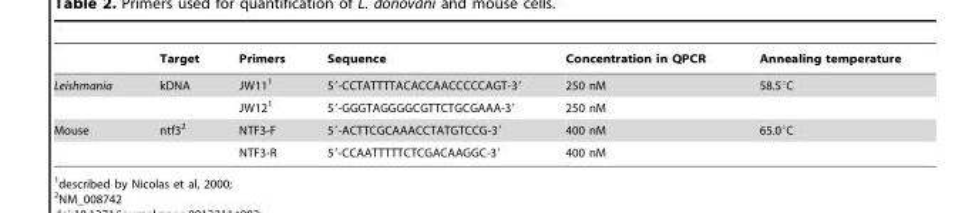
<table><thead><tr><td></td><td>Target</td><td>Primers</td><td>Sequence</td><td>Concentration in QPCR</td><td>Annealing temperature</td></tr></thead><tbody><tr><td rowspan="2">Leishmania</td><td>kDNA</td><td>JW11<sup>1</sup></td><td>5′-CCTATTTTACACCAACCCCCAGT-3′</td><td>250 nM</td><td>58.5°C</td></tr><tr><td></td><td>JW12<sup>1</sup></td><td>5′-GGGTAGGGGCGTTCTGCGAAA-3′</td><td>250 nM</td><td></td></tr><tr><td rowspan="2">Mouse</td><td>ntf3<sup>2</sup></td><td>NTF3-F</td><td>5′-ACTTCGCAAACCTATGTCCG-3′</td><td>400 nM</td><td>65.0°C</td></tr><tr><td></td><td>NTF3-R</td><td>5′-CCAATTTTTCTCGACAAGGC-3′</td><td>400 nM</td><td></td></tr></tbody></table>